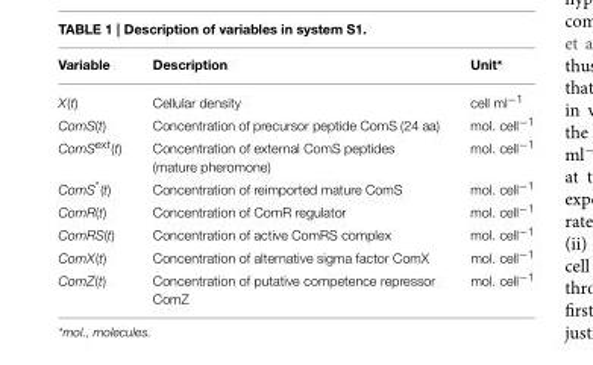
<table><thead><tr><td>Variable</td><td>Description</td><td>Unit*</td></tr></thead><tbody><tr><td>X(t)</td><td>Cellular density</td><td>cell ml<sup>−1</sup></td></tr><tr><td>ComS(t)</td><td>Concentration of precursor peptide ComS (24 aa)</td><td>mol. cell<sup>−1</sup></td></tr><tr><td>ComS<sup>ext</sup>(t)</td><td>Concentration of external ComS peptides (mature pheromone)</td><td>mol. cell<sup>−1</sup></td></tr><tr><td>ComS*(t)</td><td>Concentration of reimported mature ComS</td><td>mol. cell<sup>−1</sup></td></tr><tr><td>ComR(t)</td><td>Concentration of ComR regulator</td><td>mol. cell<sup>−1</sup></td></tr><tr><td>ComRS(t)</td><td>Concentration of active ComRS complex</td><td>mol. cell<sup>−1</sup></td></tr><tr><td>ComX(t)</td><td>Concentration of alternative sigma factor ComX</td><td>mol. cell<sup>−1</sup></td></tr><tr><td>ComZ(t)</td><td>Concentration of putative competence repressor ComZ</td><td>mol. cell<sup>−1</sup></td></tr></tbody></table>